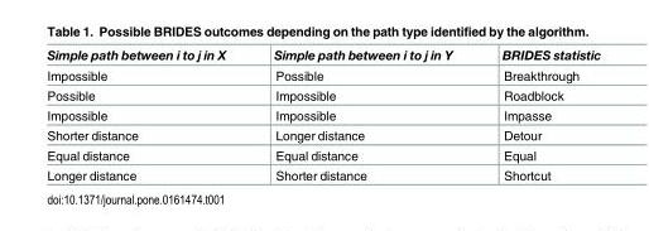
<table><thead><tr><td>Simple path between i to j in X</td><td>Simple path between i to j in Y</td><td>BRIDES statistic</td></tr></thead><tbody><tr><td>Impossible</td><td>Possible</td><td>Breakthrough</td></tr><tr><td>Possible</td><td>Impossible</td><td>Roadblock</td></tr><tr><td>Impossible</td><td>Impossible</td><td>Impasse</td></tr><tr><td>Shorter distance</td><td>Longer distance</td><td>Detour</td></tr><tr><td>Equal distance</td><td>Equal distance</td><td>Equal</td></tr><tr><td>Longer distance</td><td>Shorter distance</td><td>Shortcut</td></tr></tbody></table>